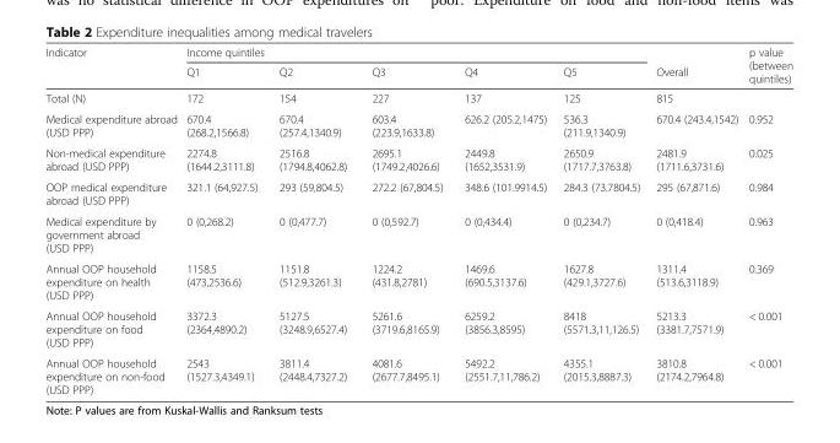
<table><thead><tr><td rowspan="2">Indicator</td><td colspan="5">Income quintiles</td><td rowspan="2">Overall</td><td rowspan="2">p value (between quintiles)</td></tr><tr><td>Q1</td><td>Q2</td><td>Q3</td><td>Q4</td><td>Q5</td></tr></thead><tbody><tr><td>Total (N)</td><td>172</td><td>154</td><td>227</td><td>137</td><td>125</td><td>815</td><td></td></tr><tr><td>Medical expenditure abroad (USD PPP)</td><td>670.4 (268.2,1566.8)</td><td>670.4 (257.4,1340.9)</td><td>603.4 (223.9,1633.8)</td><td>626.2 (205.2,1475)</td><td>536.3 (211.9,1340.9)</td><td>670.4 (243.4,1542)</td><td>0.952</td></tr><tr><td>Non-medical expenditure abroad (USD PPP)</td><td>2274.8 (1644.2,3111.8)</td><td>2516.8 (1794.8,4062.8)</td><td>2695.1 (1749.2,4026.6)</td><td>2449.8 (1652,3531.9)</td><td>2650.9 (1717.7,3763.8)</td><td>2481.9 (1711.6,3731.6)</td><td>0.025</td></tr><tr><td>OOP medical expenditure abroad (USD PPP)</td><td>321.1 (64,927.5)</td><td>293 (59,804.5)</td><td>272.2 (67,804.5)</td><td>348.6 (101.9914.5)</td><td>284.3 (73.7804.5)</td><td>295 (67,871.6)</td><td>0.984</td></tr><tr><td>Medical expenditure by government abroad (USD PPP)</td><td>0 (0,268.2)</td><td>0 (0,477.7)</td><td>0 (0,592.7)</td><td>0 (0,434.4)</td><td>0 (0,234.7)</td><td>0 (0,418.4)</td><td>0.963</td></tr><tr><td>Annual OOP household expenditure on health (USD PPP)</td><td>1158.5 (473,2536.6)</td><td>1151.8 (512.9,3261.3)</td><td>1224.2 (431.8,2781)</td><td>1469.6 (690.5,3137.6)</td><td>1627.8 (429.1,3727.6)</td><td>1311.4 (513.6,3118.9)</td><td>0.369</td></tr><tr><td>Annual OOP household expenditure on food (USD PPP)</td><td>3372.3 (2364,4890.2)</td><td>5127.5 (3248.9,6527.4)</td><td>5261.6 (3719.6,8165.9)</td><td>6259.2 (3856.3,8595)</td><td>8418 (5571.3,11,126.5)</td><td>5213.3 (3381.7,7571.9)</td><td>&lt; 0.001</td></tr><tr><td>Annual OOP household expenditure on non-food (USD PPP)</td><td>2543 (1527.3,4349.1)</td><td>3811.4 (2448.4,7327.2)</td><td>4081.6 (2677.7,8495.1)</td><td>5492.2 (2551.7,11,786.2)</td><td>4355.1 (2015.3,8887.3)</td><td>3810.8 (2174.2,7964.8)</td><td>&lt; 0.001</td></tr></tbody></table>